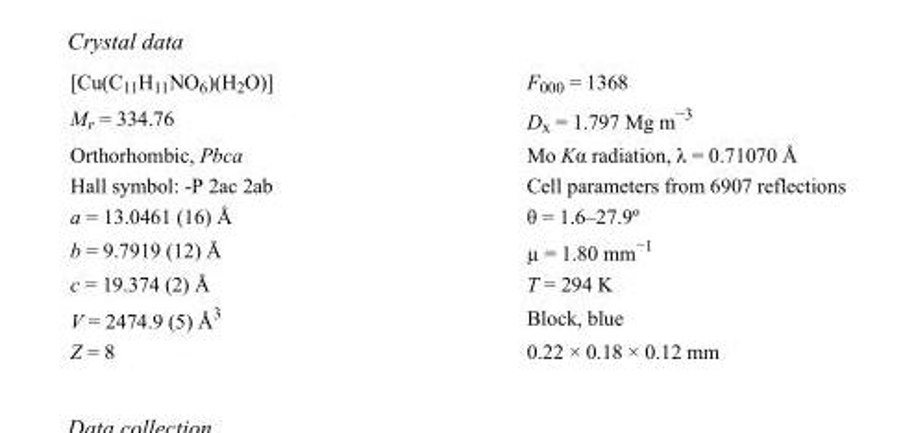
<table><tbody><tr><td>[Cu(C<sub>11</sub>H<sub>11</sub>NO<sub>6</sub>)(H<sub>2</sub>O)]</td><td>F000 = 1368</td></tr><tr><td>M<sub>r</sub> = 334.76</td><td>D<sub>x</sub> = 1.797 Mg m<sup>−3</sup></td></tr><tr><td>Orthorhombic, Pbca</td><td>Mo Kα radiation, λ = 0.71070 Å</td></tr><tr><td>Hall symbol: -P 2ac 2ab</td><td>Cell parameters from 6907 reflections</td></tr><tr><td>a = 13.0461 (16) Å</td><td>θ = 1.6–27.9º</td></tr><tr><td>b = 9.7919 (12) Å</td><td>µ = 1.80 mm<sup>−1</sup></td></tr><tr><td>c = 19.374 (2) Å</td><td>T = 294 K</td></tr><tr><td>V = 2474.9 (5) Å<sup>3</sup></td><td>Block, blue</td></tr><tr><td>Z = 8</td><td>0.22 × 0.18 × 0.12 mm</td></tr></tbody></table>